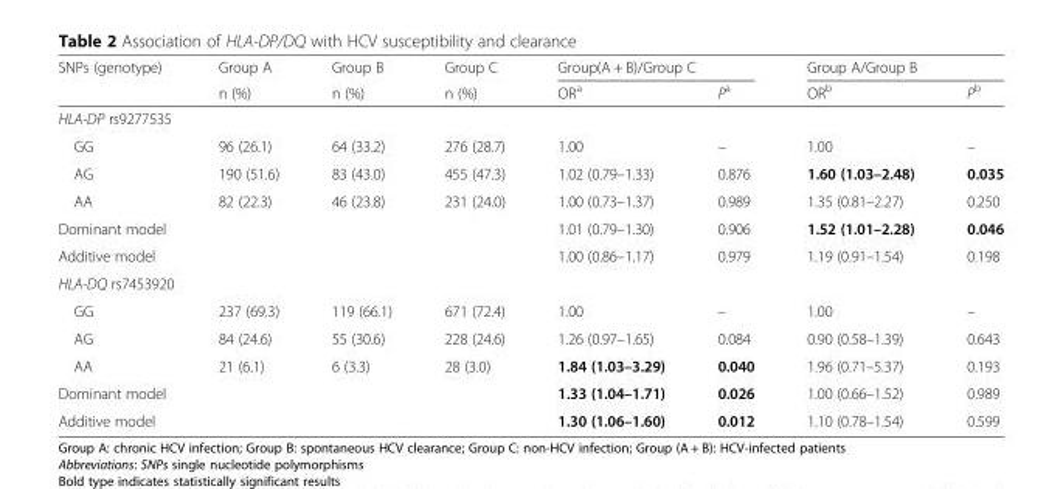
<table><thead><tr><td rowspan="2">SNPs (genotype)</td><td rowspan="2">Group A n (%)</td><td rowspan="2">Group B n (%)</td><td rowspan="2">Group C n (%)</td><td colspan="2">Group(A + B)/Group C</td><td colspan="2">Group A/Group B</td></tr><tr><td>OR<sup>a</sup></td><td>P<sup>a</sup></td><td>OR<sup>b</sup></td><td>P<sup>b</sup></td></tr></thead><tbody><tr><td colspan="8">HLA-DP rs9277535</td></tr><tr><td>GG</td><td>96 (26.1)</td><td>64 (33.2)</td><td>276 (28.7)</td><td>1.00</td><td>–</td><td>1.00</td><td>–</td></tr><tr><td>AG</td><td>190 (51.6)</td><td>83 (43.0)</td><td>455 (47.3)</td><td>1.02 (0.79–1.33)</td><td>0.876</td><td>1.60 (1.03–2.48)</td><td>0.035</td></tr><tr><td>AA</td><td>82 (22.3)</td><td>46 (23.8)</td><td>231 (24.0)</td><td>1.00 (0.73–1.37)</td><td>0.989</td><td>1.35 (0.81–2.27)</td><td>0.250</td></tr><tr><td>Dominant model</td><td></td><td></td><td></td><td>1.01 (0.79–1.30)</td><td>0.906</td><td>1.52 (1.01–2.28)</td><td>0.046</td></tr><tr><td>Additive model</td><td></td><td></td><td></td><td>1.00 (0.86–1.17)</td><td>0.979</td><td>1.19 (0.91–1.54)</td><td>0.198</td></tr><tr><td colspan="8">HLA-DQ rs7453920</td></tr><tr><td>GG</td><td>237 (69.3)</td><td>119 (66.1)</td><td>671 (72.4)</td><td>1.00</td><td>–</td><td>1.00</td><td>–</td></tr><tr><td>AG</td><td>84 (24.6)</td><td>55 (30.6)</td><td>228 (24.6)</td><td>1.26 (0.97–1.65)</td><td>0.084</td><td>0.90 (0.58–1.39)</td><td>0.643</td></tr><tr><td>AA</td><td>21 (6.1)</td><td>6 (3.3)</td><td>28 (3.0)</td><td>1.84 (1.03–3.29)</td><td>0.040</td><td>1.96 (0.71–5.37)</td><td>0.193</td></tr><tr><td>Dominant model</td><td></td><td></td><td></td><td>1.33 (1.04–1.71)</td><td>0.026</td><td>1.00 (0.66–1.52)</td><td>0.989</td></tr><tr><td>Additive model</td><td></td><td></td><td></td><td>1.30 (1.06–1.60)</td><td>0.012</td><td>1.10 (0.78–1.54)</td><td>0.599</td></tr></tbody></table>